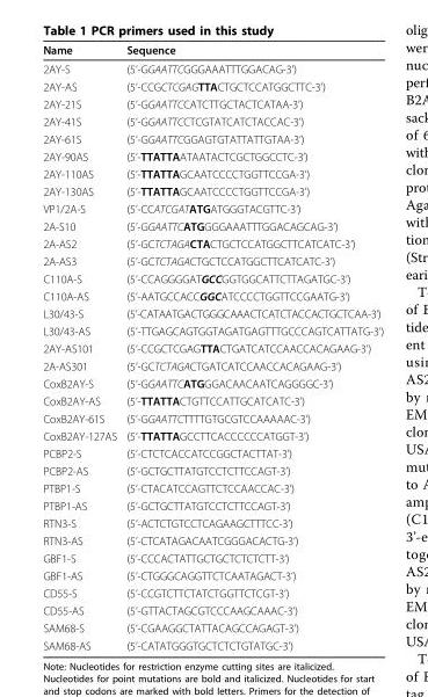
<table><thead><tr><td>Name</td><td>Sequence</td></tr></thead><tbody><tr><td>2AY-S</td><td>(5’-GGAATTCGGGAAATTTGGACAG-3’)</td></tr><tr><td>2AY-AS</td><td>(5’-CCGCTCGAGTTACTGCTCCATGGCTTC-3’)</td></tr><tr><td>2AY-21S</td><td>(5’-GGAATTCCATCTTGCTACTCATAA-3’)</td></tr><tr><td>2AY-41S</td><td>(5’-GGAATTCCTCGTATCATCTACCAC-3’)</td></tr><tr><td>2AY-61S</td><td>(5’-GGAATTCGGAGTGTATTATTGTAA-3’)</td></tr><tr><td>2AY-90AS</td><td>(5’-TTATTAATAATACTCGCTGGCCTC-3’)</td></tr><tr><td>2AY-110AS</td><td>(5’-TTATTAGCAATCCCCTGGTTCCGA-3’)</td></tr><tr><td>2AY-130AS</td><td>(5’-TTATTAGCAATCCCCTGGTTCCGA-3’)</td></tr><tr><td>VP1/2A-S</td><td>(5’-CCATCGATATGATGGGTACGTTC-3’)</td></tr><tr><td>2A-S10</td><td>(5’-GGAATTCATGGGGAAATTTGGACAGCAG-3’)</td></tr><tr><td>2A-AS2</td><td>(5’-GCTCTAGACTACTGCTCCATGGCTTCATCATC-3’)</td></tr><tr><td>2A-AS3</td><td>(5’-GCTCTAGACTGCTCCATGGCTTCATCATC-3’)</td></tr><tr><td>C110A-S</td><td>(5’-CCAGGGGATGCCGGTGGCATTCTTAGATGC-3’)</td></tr><tr><td>C110A-AS</td><td>(5’-AATGCCACCGGCATCCCCTGGTTCCGAATG-3’)</td></tr><tr><td>L30/43-S</td><td>(5’-CATAATGACTGGGCAAACTCATCTACCACTGCTCAA-3’)</td></tr><tr><td>L30/43-AS</td><td>(5’-TTGAGCAGTGGTAGATGAGTTTGCCCAGTCATTATG-3’)</td></tr><tr><td>2AY-AS101</td><td>(5’-CCGCTCGAGTTACTGATCATCCAACCACAGAAG-3’)</td></tr><tr><td>2A-AS301</td><td>(5’-GCTCTAGACTGATCATCCAACCACAGAAG-3’)</td></tr><tr><td>CoxB2AY-S</td><td>(5’-GGAATTCATGGGACAACAATCAGGGGC-3’)</td></tr><tr><td>CoxB2AY-AS</td><td>(5’-TTATTACTGTTCCATTGCATCATC-3’)</td></tr><tr><td>CoxB2AY-61S</td><td>(5’-GGAATTCTTTTGTGCGTCCAAAAAC-3’)</td></tr><tr><td>CoxB2AY-127AS</td><td>(5’-TTATTAGCCTTCACCCCCCATGGT-3’)</td></tr><tr><td>PCBP2-S</td><td>(5’-CTCTCACCATCCGGCTACTTAT-3’)</td></tr><tr><td>PCBP2-AS</td><td>(5’-GCTGCTTATGTCCTCTTCCAGT-3’)</td></tr><tr><td>PTBP1-S</td><td>(5’-CTACATCCAGTTCTCCAACCAC-3’)</td></tr><tr><td>PTBP1-AS</td><td>(5’-GCTGCTTATGTCCTCTTCCAGT-3’)</td></tr><tr><td>RTN3-S</td><td>(5’-ACTCTGTCCTCAGAAGCTTTCC-3’)</td></tr><tr><td>RTN3-AS</td><td>(5’-CTCATAGACAATCGGGACACTG-3’)</td></tr><tr><td>GBF1-S</td><td>(5’-CCCACTATTGCTGCTCTCTCTT-3’)</td></tr><tr><td>GBF1-AS</td><td>(5’-CTGGGCAGGTTCTCAATAGACT-3’)</td></tr><tr><td>CD55-S</td><td>(5’-CCGTCTTCTATCTGGTTCTCGT-3’)</td></tr><tr><td>CD55-AS</td><td>(5’-GTTACTAGCGTCCCAAGCAAAC-3’)</td></tr><tr><td>SAM68-S</td><td>(5’-CGAAGGCTATTACAGCCAGAGT-3’)</td></tr><tr><td>SAM68-AS</td><td>(5’-CATATGGGTGCTCTCTGTATGC-3’)</td></tr></tbody></table>